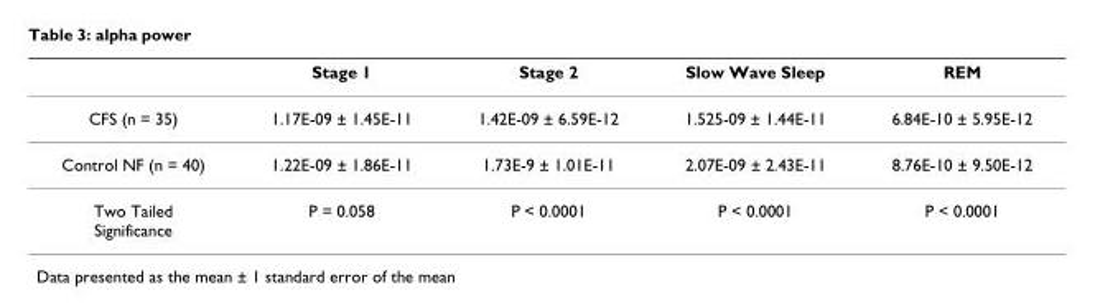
<table><thead><tr><td></td><td>Stage 1</td><td>Stage 2</td><td>Slow Wave Sleep</td><td>REM</td></tr></thead><tbody><tr><td>CFS (n = 35)</td><td>1.17E-09 ± 1.45E-11</td><td>1.42E-09 ± 6.59E-12</td><td>1.525-09 ± 1.44E-11</td><td>6.84E-10 ± 5.95E-12</td></tr><tr><td>Control NF (n = 40)</td><td>1.22E-09 ± 1.86E-11</td><td>1.73E-9 ± 1.01E-11</td><td>2.07E-09 ± 2.43E-11</td><td>8.76E-10 ± 9.50E-12</td></tr><tr><td>Two Tailed Significance</td><td>P = 0.058</td><td>P &lt; 0.0001</td><td>P &lt; 0.0001</td><td>P &lt; 0.0001</td></tr></tbody></table>